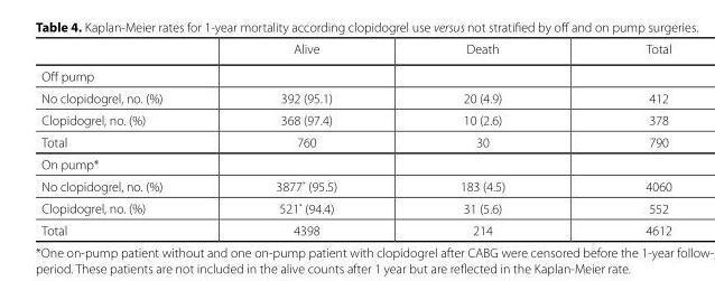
<table><thead><tr><td></td><td>Alive</td><td>Death</td><td>Total</td></tr></thead><tbody><tr><td colspan="4">Off pump</td></tr><tr><td>No clopidogrel, no. (%)</td><td>392 (95.1)</td><td>20 (4.9)</td><td>412</td></tr><tr><td>Clopidogrel, no. (%)</td><td>368 (97.4)</td><td>10 (2.6)</td><td>378</td></tr><tr><td>Total</td><td>760</td><td>30</td><td>790</td></tr><tr><td colspan="4">On pump*</td></tr><tr><td>No clopidogrel, no. (%)</td><td>3877* (95.5)</td><td>183 (4.5)</td><td>4060</td></tr><tr><td>Clopidogrel, no. (%)</td><td>521* (94.4)</td><td>31 (5.6)</td><td>552</td></tr><tr><td>Total</td><td>4398</td><td>214</td><td>4612</td></tr></tbody></table>